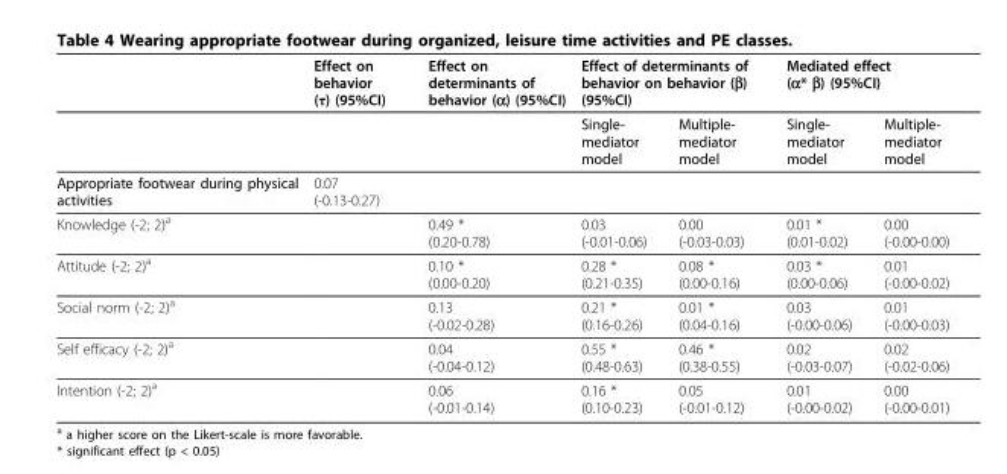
<table><thead><tr><td rowspan="2"></td><td rowspan="2">Effect on behavior (τ) (95%CI)</td><td rowspan="2">Effect on determinants of behavior (α) (95%CI)</td><td colspan="2">Effect of determinants of behavior on behavior (β) (95%CI)</td><td colspan="2">Mediated effect (α* β) (95%CI)</td></tr><tr><td>Single- mediator model</td><td>Multiple- mediator model</td><td>Single- mediator model</td><td>Multiple- mediator model</td></tr></thead><tbody><tr><td>Appropriate footwear during physical activities</td><td>0.07 (-0.13-0.27)</td><td></td><td></td><td></td><td></td><td></td></tr><tr><td>Knowledge (-2; 2)a</td><td></td><td>0.49 * (0.20-0.78)</td><td>0.03 (-0.01-0.06)</td><td>0.00 (-0.03-0.03)</td><td>0.01 * (0.01-0.02)</td><td>0.00 (-0.00-0.00)</td></tr><tr><td>Attitude (-2; 2)a</td><td></td><td>0.10 * (0.00-0.20)</td><td>0.28 * (0.21-0.35)</td><td>0.08 * (0.00-0.16)</td><td>0.03 * (0.00-0.06)</td><td>0.01 (-0.00-0.02)</td></tr><tr><td>Social norm (-2; 2)a</td><td></td><td>0.13 (-0.02-0.28)</td><td>0.21 * (0.16-0.26)</td><td>0.01 * (0.04-0.16)</td><td>0.03 (-0.00-0.06)</td><td>0.01 (-0.00-0.03)</td></tr><tr><td>Self efficacy (-2; 2)a</td><td></td><td>0.04 (-0.04-0.12)</td><td>0.55 * (0.48-0.63)</td><td>0.46 * (0.38-0.55)</td><td>0.02 (-0.03-0.07)</td><td>0.02 (-0.02-0.06)</td></tr><tr><td>Intention (-2; 2)a</td><td></td><td>0.06 (-0.01-0.14)</td><td>0.16 * (0.10-0.23)</td><td>0.05 (-0.01-0.12)</td><td>0.01 (-0.00-0.02)</td><td>0.00 (-0.00-0.01)</td></tr></tbody></table>